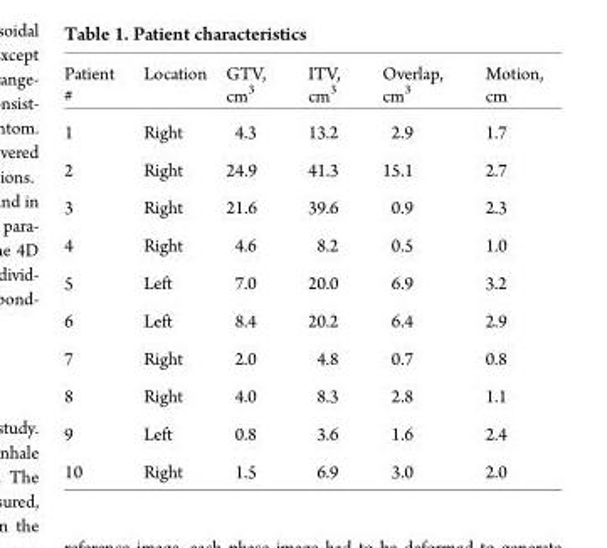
<table><thead><tr><td>Patient #</td><td>Location</td><td>GTV, cm<sup>3</sup></td><td>ITV, cm<sup>3</sup></td><td>Overlap, cm<sup>3</sup></td><td>Motion, cm</td></tr></thead><tbody><tr><td>1</td><td>Right</td><td>4.3</td><td>13.2</td><td>2.9</td><td>1.7</td></tr><tr><td>2</td><td>Right</td><td>24.9</td><td>41.3</td><td>15.1</td><td>2.7</td></tr><tr><td>3</td><td>Right</td><td>21.6</td><td>39.6</td><td>0.9</td><td>2.3</td></tr><tr><td>4</td><td>Right</td><td>4.6</td><td>8.2</td><td>0.5</td><td>1.0</td></tr><tr><td>5</td><td>Left</td><td>7.0</td><td>20.0</td><td>6.9</td><td>3.2</td></tr><tr><td>6</td><td>Left</td><td>8.4</td><td>20.2</td><td>6.4</td><td>2.9</td></tr><tr><td>7</td><td>Right</td><td>2.0</td><td>4.8</td><td>0.7</td><td>0.8</td></tr><tr><td>8</td><td>Right</td><td>4.0</td><td>8.3</td><td>2.8</td><td>1.1</td></tr><tr><td>9</td><td>Left</td><td>0.8</td><td>3.6</td><td>1.6</td><td>2.4</td></tr><tr><td>10</td><td>Right</td><td>1.5</td><td>6.9</td><td>3.0</td><td>2.0</td></tr></tbody></table>